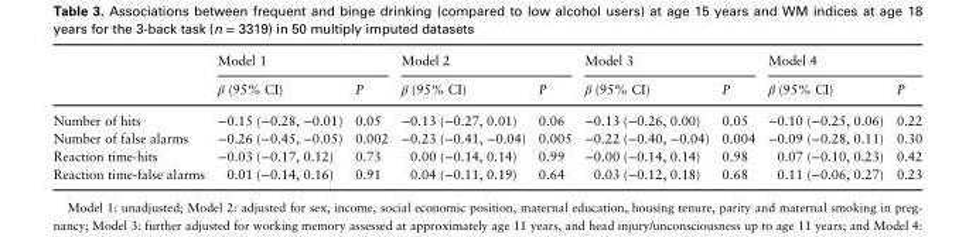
<table><thead><tr><td rowspan="2"></td><td colspan="2">Model 1</td><td colspan="2">Model 2</td><td colspan="2">Model 3</td><td colspan="2">Model 4</td></tr><tr><td>β (95% CI)</td><td>P</td><td>β (95% CI)</td><td>P</td><td>β (95% CI)</td><td>P</td><td>β (95% CI)</td><td>P</td></tr></thead><tbody><tr><td>Number of hits</td><td>−0.15 (−0.28, −0.01)</td><td>0.05</td><td>−0.13 (−0.27, 0.01)</td><td>0.06</td><td>−0.13 (−0.26, 0.00)</td><td>0.05</td><td>−0.10 (−0.25, 0.06)</td><td>0.22</td></tr><tr><td>Number of false alarms</td><td>−0.26 (−0.45, −0.05)</td><td>0.002</td><td>−0.23 (−0.41, −0.04)</td><td>0.005</td><td>−0.22 (−0.40, −0.04)</td><td>0.004</td><td>−0.09 (−0.28, 0.11)</td><td>0.30</td></tr><tr><td>Reaction time-hits</td><td>−0.03 (−0.17, 0.12)</td><td>0.73</td><td>0.00 (−0.14, 0.14)</td><td>0.99</td><td>−0.00 (−0.14, 0.14)</td><td>0.98</td><td>0.07 (−0.10, 0.23)</td><td>0.42</td></tr><tr><td>Reaction time-false alarms</td><td>0.01 (−0.14, 0.16)</td><td>0.91</td><td>0.04 (−0.11, 0.19)</td><td>0.64</td><td>0.03 (−0.12, 0.18)</td><td>0.68</td><td>0.11 (−0.06, 0.27)</td><td>0.23</td></tr></tbody></table>